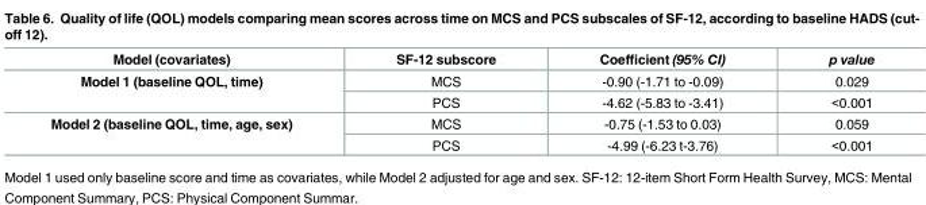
<table><thead><tr><td>Model (covariates)</td><td>SF-12 subscore</td><td>Coefficient (95% CI)</td><td>p value</td></tr></thead><tbody><tr><td rowspan="2">Model 1 (baseline QOL, time)</td><td>MCS</td><td>-0.90 (-1.71 to -0.09)</td><td>0.029</td></tr><tr><td>PCS</td><td>-4.62 (-5.83 to -3.41)</td><td>&lt;0.001</td></tr><tr><td rowspan="2">Model 2 (baseline QOL, time, age, sex)</td><td>MCS</td><td>-0.75 (-1.53 to 0.03)</td><td>0.059</td></tr><tr><td>PCS</td><td>-4.99 (-6.23 t-3.76)</td><td>&lt;0.001</td></tr></tbody></table>